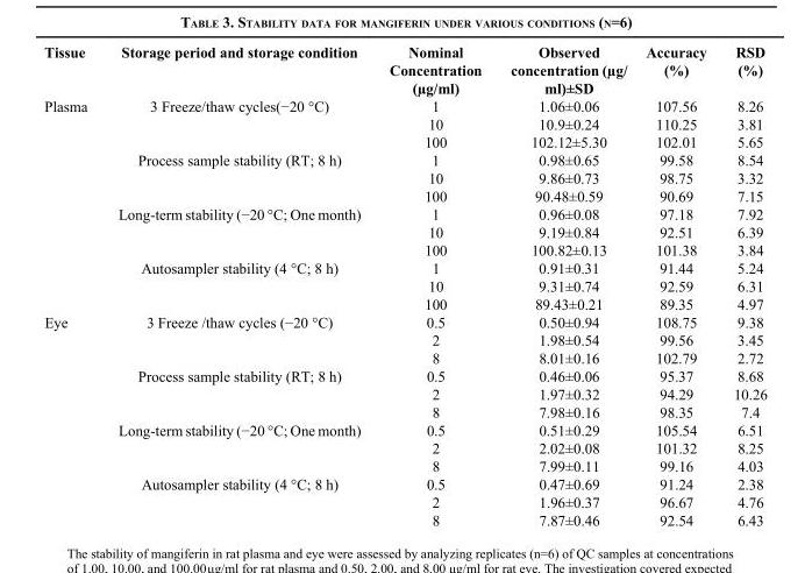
<table><thead><tr><td>Tissue</td><td>Storage period and storage condition</td><td>Nominal Concentration (µg/ml)</td><td>Observed concentration (µg/ ml)±SD</td><td>Accuracy (%)</td><td>RSD (%)</td></tr></thead><tbody><tr><td rowspan="12">Plasma</td><td rowspan="3">3 Freeze/thaw cycles(−20 °C)</td><td>1</td><td>1.06±0.06</td><td>107.56</td><td>8.26</td></tr><tr><td>10</td><td>10.9±0.24</td><td>110.25</td><td>3.81</td></tr><tr><td>100</td><td>102.12±5.30</td><td>102.01</td><td>5.65</td></tr><tr><td rowspan="3">Process sample stability (RT; 8 h)</td><td>1</td><td>0.98±0.65</td><td>99.58</td><td>8.54</td></tr><tr><td>10</td><td>9.86±0.73</td><td>98.75</td><td>3.32</td></tr><tr><td>100</td><td>90.48±0.59</td><td>90.69</td><td>7.15</td></tr><tr><td rowspan="3">Long-term stability (−20 °C; One month)</td><td>1</td><td>0.96±0.08</td><td>97.18</td><td>7.92</td></tr><tr><td>10</td><td>9.19±0.84</td><td>92.51</td><td>6.39</td></tr><tr><td>100</td><td>100.82±0.13</td><td>101.38</td><td>3.84</td></tr><tr><td rowspan="3">Autosampler stability (4 °C; 8 h)</td><td>1</td><td>0.91±0.31</td><td>91.44</td><td>5.24</td></tr><tr><td>10</td><td>9.31±0.74</td><td>92.59</td><td>6.31</td></tr><tr><td>100</td><td>89.43±0.21</td><td>89.35</td><td>4.97</td></tr><tr><td rowspan="12">Eye</td><td rowspan="3">3 Freeze /thaw cycles (−20 °C)</td><td>0.5</td><td>0.50±0.94</td><td>108.75</td><td>9.38</td></tr><tr><td>2</td><td>1.98±0.54</td><td>99.56</td><td>3.45</td></tr><tr><td>8</td><td>8.01±0.16</td><td>102.79</td><td>2.72</td></tr><tr><td rowspan="3">Process sample stability (RT; 8 h)</td><td>0.5</td><td>0.46±0.06</td><td>95.37</td><td>8.68</td></tr><tr><td>2</td><td>1.97±0.32</td><td>94.29</td><td>10.26</td></tr><tr><td>8</td><td>7.98±0.16</td><td>98.35</td><td>7.4</td></tr><tr><td rowspan="3">Long-term stability (−20 °C; One month)</td><td>0.5</td><td>0.51±0.29</td><td>105.54</td><td>6.51</td></tr><tr><td>2</td><td>2.02±0.08</td><td>101.32</td><td>8.25</td></tr><tr><td>8</td><td>7.99±0.11</td><td>99.16</td><td>4.03</td></tr><tr><td rowspan="3">Autosampler stability (4 °C; 8 h)</td><td>0.5</td><td>0.47±0.69</td><td>91.24</td><td>2.38</td></tr><tr><td>2</td><td>1.96±0.37</td><td>96.67</td><td>4.76</td></tr><tr><td>8</td><td>7.87±0.46</td><td>92.54</td><td>6.43</td></tr></tbody></table>